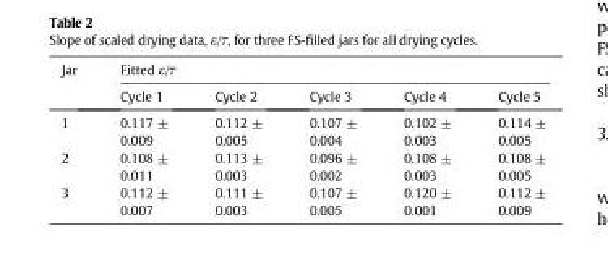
<table><thead><tr><td rowspan="2">Jar</td><td colspan="5">Fitted ε/τ</td></tr><tr><td>Cycle 1</td><td>Cycle 2</td><td>Cycle 3</td><td>Cycle 4</td><td>Cycle 5</td></tr></thead><tbody><tr><td>1</td><td>0.117 ± 0.009</td><td>0.112 ± 0.005</td><td>0.107 ± 0.004</td><td>0.102 ± 0.003</td><td>0.114 ± 0.005</td></tr><tr><td>2</td><td>0.108 ± 0.011</td><td>0.113 ± 0.003</td><td>0.096 ± 0.002</td><td>0.108 ± 0.003</td><td>0.108 ± 0.005</td></tr><tr><td>3</td><td>0.112 ± 0.007</td><td>0.111 ± 0.003</td><td>0.107 ± 0.005</td><td>0.120 ± 0.001</td><td>0.112 ± 0.009</td></tr></tbody></table>